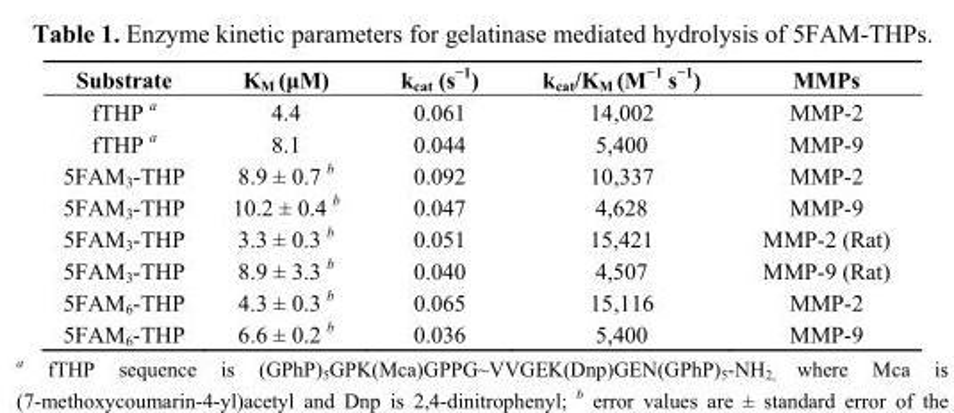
<table><thead><tr><td>Substrate</td><td>K<sub>M</sub> (μM)</td><td>k<sub>cat</sub> (s<sup>−1</sup>)</td><td>k<sub>cat</sub>/K<sub>M</sub> (M<sup>−1</sup> s<sup>−1</sup>)</td><td>MMPs</td></tr></thead><tbody><tr><td>fTHP <sup>a</sup></td><td>4.4</td><td>0.061</td><td>14,002</td><td>MMP-2</td></tr><tr><td>fTHP <sup>a</sup></td><td>8.1</td><td>0.044</td><td>5,400</td><td>MMP-9</td></tr><tr><td>5FAM<sub>3</sub>-THP</td><td>8.9 ± 0.7 <sup>b</sup></td><td>0.092</td><td>10,337</td><td>MMP-2</td></tr><tr><td>5FAM<sub>3</sub>-THP</td><td>10.2 ± 0.4 <sup>b</sup></td><td>0.047</td><td>4,628</td><td>MMP-9</td></tr><tr><td>5FAM<sub>3</sub>-THP</td><td>3.3 ± 0.3 <sup>b</sup></td><td>0.051</td><td>15,421</td><td>MMP-2 (Rat)</td></tr><tr><td>5FAM<sub>3</sub>-THP</td><td>8.9 ± 3.3 <sup>b</sup></td><td>0.040</td><td>4,507</td><td>MMP-9 (Rat)</td></tr><tr><td>5FAM<sub>6</sub>-THP</td><td>4.3 ± 0.3 <sup>b</sup></td><td>0.065</td><td>15,116</td><td>MMP-2</td></tr><tr><td>5FAM<sub>6</sub>-THP</td><td>6.6 ± 0.2 <sup>b</sup></td><td>0.036</td><td>5,400</td><td>MMP-9</td></tr></tbody></table>